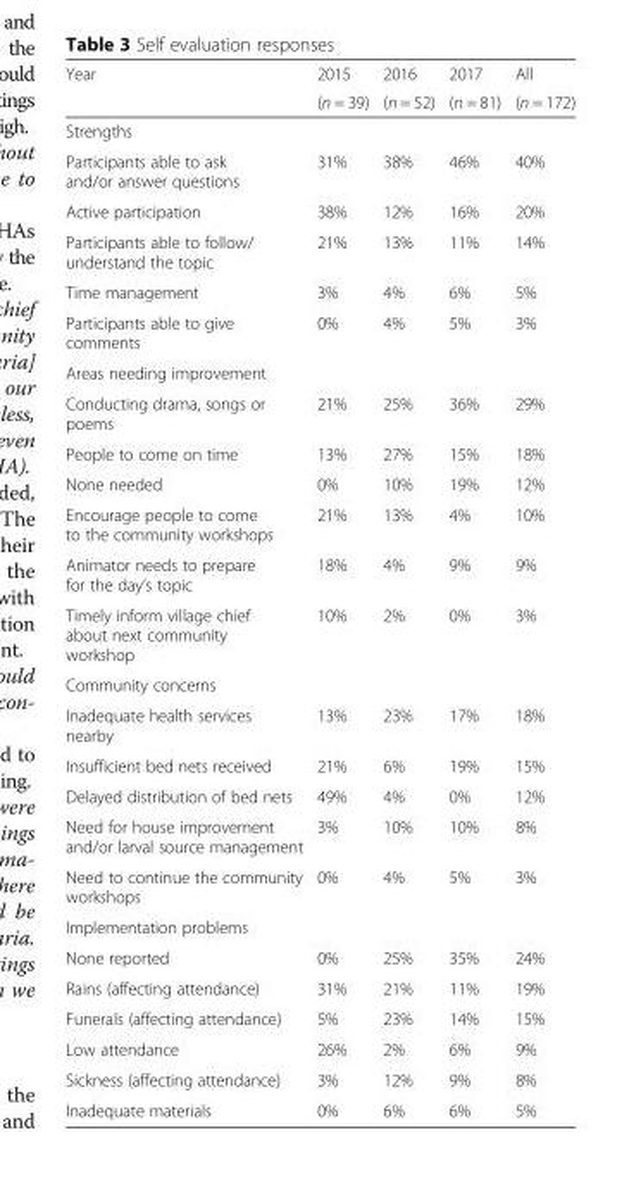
<table><thead><tr><td rowspan="2">Year</td><td rowspan="2">2015 (n = 39)</td><td rowspan="2">2016 (n = 52)</td><td rowspan="2">2017 (n = 81)</td><td rowspan="2">All (n = 172)</td></tr><tr></tr></thead><tbody><tr><td colspan="5">Strengths</td></tr><tr><td>Participants able to ask and/or answer questions</td><td>31%</td><td>38%</td><td>46%</td><td>40%</td></tr><tr><td>Active participation</td><td>38%</td><td>12%</td><td>16%</td><td>20%</td></tr><tr><td>Participants able to follow/ understand the topic</td><td>21%</td><td>13%</td><td>11%</td><td>14%</td></tr><tr><td>Time management</td><td>3%</td><td>4%</td><td>6%</td><td>5%</td></tr><tr><td>Participants able to give comments</td><td>0%</td><td>4%</td><td>5%</td><td>3%</td></tr><tr><td colspan="5">Areas needing improvement</td></tr><tr><td>Conducting drama, songs or poems</td><td>21%</td><td>25%</td><td>36%</td><td>29%</td></tr><tr><td>People to come on time</td><td>13%</td><td>27%</td><td>15%</td><td>18%</td></tr><tr><td>None needed</td><td>0%</td><td>10%</td><td>19%</td><td>12%</td></tr><tr><td>Encourage people to come to the community workshops</td><td>21%</td><td>13%</td><td>4%</td><td>10%</td></tr><tr><td>Animator needs to prepare for the day’s topic</td><td>18%</td><td>4%</td><td>9%</td><td>9%</td></tr><tr><td>Timely inform village chief about next community workshop</td><td>10%</td><td>2%</td><td>0%</td><td>3%</td></tr><tr><td colspan="5">Community concerns</td></tr><tr><td>Inadequate health services nearby</td><td>13%</td><td>23%</td><td>17%</td><td>18%</td></tr><tr><td>Insufficient bed nets received</td><td>21%</td><td>6%</td><td>19%</td><td>15%</td></tr><tr><td>Delayed distribution of bed nets</td><td>49%</td><td>4%</td><td>0%</td><td>12%</td></tr><tr><td>Need for house improvement and/or larval source management</td><td>3%</td><td>10%</td><td>10%</td><td>8%</td></tr><tr><td>Need to continue the community workshops</td><td>0%</td><td>4%</td><td>5%</td><td>3%</td></tr><tr><td colspan="5">Implementation problems</td></tr><tr><td>None reported</td><td>0%</td><td>25%</td><td>35%</td><td>24%</td></tr><tr><td>Rains (affecting attendance)</td><td>31%</td><td>21%</td><td>11%</td><td>19%</td></tr><tr><td>Funerals (affecting attendance)</td><td>5%</td><td>23%</td><td>14%</td><td>15%</td></tr><tr><td>Low attendance</td><td>26%</td><td>2%</td><td>6%</td><td>9%</td></tr><tr><td>Sickness (affecting attendance)</td><td>3%</td><td>12%</td><td>9%</td><td>8%</td></tr><tr><td>Inadequate materials</td><td>0%</td><td>6%</td><td>6%</td><td>5%</td></tr></tbody></table>